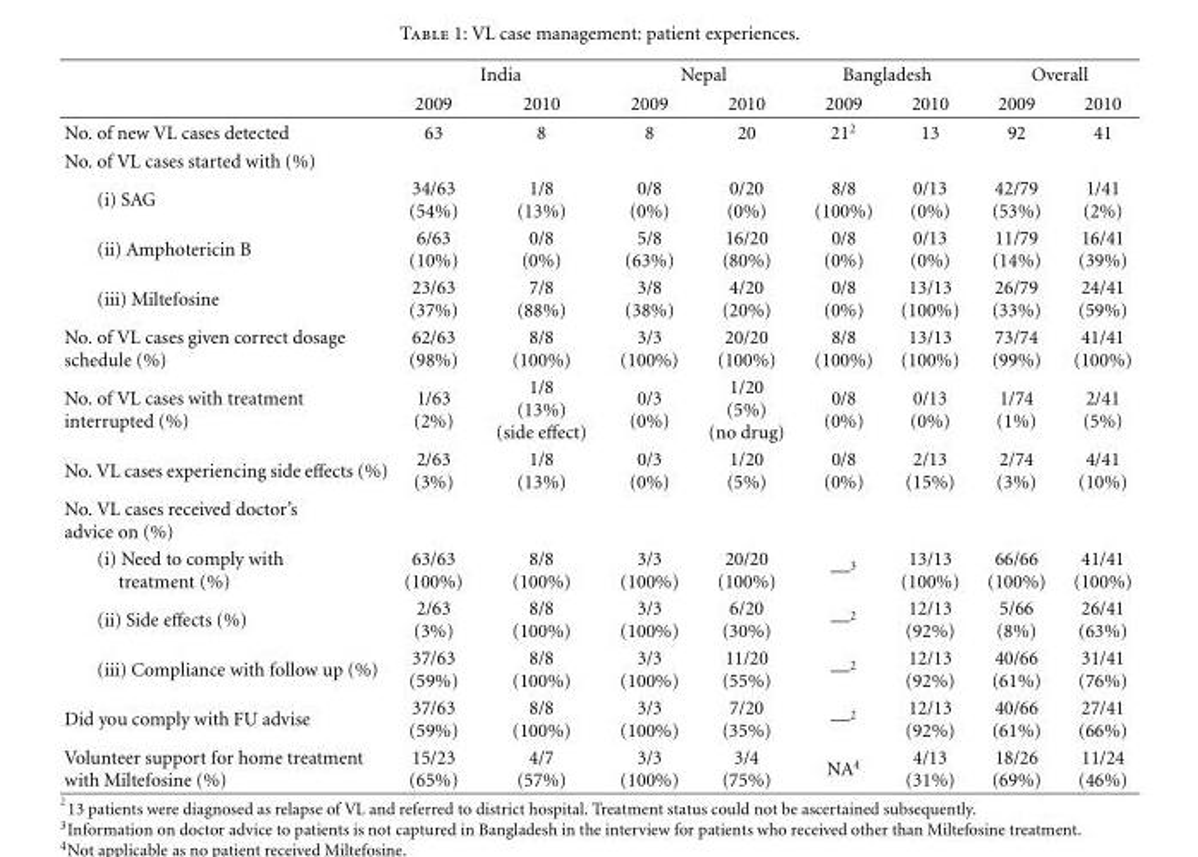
<table><thead><tr><td rowspan="2"></td><td colspan="2">India</td><td colspan="2">Nepal</td><td colspan="2">Bangladesh</td><td colspan="2">Overall</td></tr><tr><td>2009</td><td>2010</td><td>2009</td><td>2010</td><td>2009</td><td>2010</td><td>2009</td><td>2010</td></tr></thead><tbody><tr><td>No. of new VL cases detected</td><td>63</td><td>8</td><td>8</td><td>20</td><td>21<sup>2</sup></td><td>13</td><td>92</td><td>41</td></tr><tr><td colspan="9">No. of VL cases started with (%)</td></tr><tr><td>(i) SAG</td><td>34/63 (54%)</td><td>1/8 (13%)</td><td>0/8 (0%)</td><td>0/20 (0%)</td><td>8/8 (100%)</td><td>0/13 (0%)</td><td>42/79 (53%)</td><td>1/41 (2%)</td></tr><tr><td>(ii) Amphotericin B</td><td>6/63 (10%)</td><td>0/8 (0%)</td><td>5/8 (63%)</td><td>16/20 (80%)</td><td>0/8 (0%)</td><td>0/13 (0%)</td><td>11/79 (14%)</td><td>16/41 (39%)</td></tr><tr><td>(iii) Miltefosine</td><td>23/63 (37%)</td><td>7/8 (88%)</td><td>3/8 (38%)</td><td>4/20 (20%)</td><td>0/8 (0%)</td><td>13/13 (100%)</td><td>26/79 (33%)</td><td>24/41 (59%)</td></tr><tr><td>No. of VL cases given correct dosage schedule (%)</td><td>62/63 (98%)</td><td>8/8 (100%)</td><td>3/3 (100%)</td><td>20/20 (100%)</td><td>8/8 (100%)</td><td>13/13 (100%)</td><td>73/74 (99%)</td><td>41/41 (100%)</td></tr><tr><td>No. of VL cases with treatment interrupted (%)</td><td>1/63 (2%)</td><td>1/8 (13%) (side effect)</td><td>0/3 (0%)</td><td>1/20 (5%) (no drug)</td><td>0/8 (0%)</td><td>0/13 (0%)</td><td>1/74 (1%)</td><td>2/41 (5%)</td></tr><tr><td>No. VL cases experiencing side effects (%)</td><td>2/63 (3%)</td><td>1/8 (13%)</td><td>0/3 (0%)</td><td>1/20 (5%)</td><td>0/8 (0%)</td><td>2/13 (15%)</td><td>2/74 (3%)</td><td>4/41 (10%)</td></tr><tr><td colspan="9">No. VL cases received doctor’s advice on (%)</td></tr><tr><td>(i) Need to comply with treatment (%)</td><td>63/63 (100%)</td><td>8/8 (100%)</td><td>3/3 (100%)</td><td>20/20 (100%)</td><td>—<sup>3</sup></td><td>13/13 (100%)</td><td>66/66 (100%)</td><td>41/41 (100%)</td></tr><tr><td>(ii) Side effects (%)</td><td>2/63 (3%)</td><td>8/8 (100%)</td><td>3/3 (100%)</td><td>6/20 (30%)</td><td>—<sup>2</sup></td><td>12/13 (92%)</td><td>5/66 (8%)</td><td>26/41 (63%)</td></tr><tr><td>(iii) Compliance with follow up (%)</td><td>37/63 (59%)</td><td>8/8 (100%)</td><td>3/3 (100%)</td><td>11/20 (55%)</td><td>—<sup>2</sup></td><td>12/13 (92%)</td><td>40/66 (61%)</td><td>31/41 (76%)</td></tr><tr><td>Did you comply with FU advise</td><td>37/63 (59%)</td><td>8/8 (100%)</td><td>3/3 (100%)</td><td>7/20 (35%)</td><td>—<sup>2</sup></td><td>12/13 (92%)</td><td>40/66 (61%)</td><td>27/41 (66%)</td></tr><tr><td>Volunteer support for home treatment with Miltefosine (%)</td><td>15/23 (65%)</td><td>4/7 (57%)</td><td>3/3 (100%)</td><td>3/4 (75%)</td><td>NA<sup>4</sup></td><td>4/13 (31%)</td><td>18/26 (69%)</td><td>11/24 (46%)</td></tr></tbody></table>